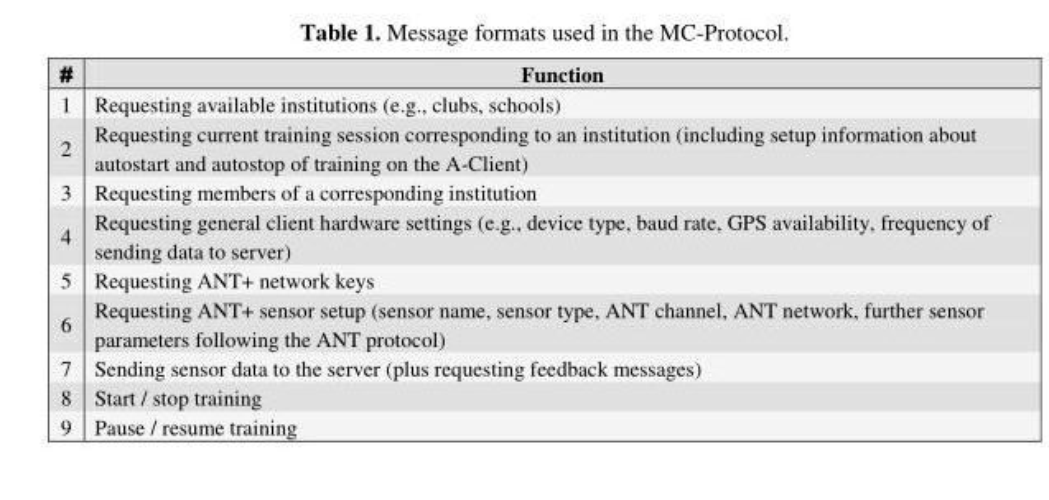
<table><thead><tr><td>#</td><td>Function</td></tr></thead><tbody><tr><td>1</td><td>Requesting available institutions (e.g., clubs, schools)</td></tr><tr><td>2</td><td>Requesting current training session corresponding to an institution (including setup information about autostart and autostop of training on the A-Client)</td></tr><tr><td>3</td><td>Requesting members of a corresponding institution</td></tr><tr><td>4</td><td>Requesting general client hardware settings (e.g., device type, baud rate, GPS availability, frequency of sending data to server)</td></tr><tr><td>5</td><td>Requesting ANT+ network keys</td></tr><tr><td>6</td><td>Requesting ANT+ sensor setup (sensor name, sensor type, ANT channel, ANT network, further sensor parameters following the ANT protocol)</td></tr><tr><td>7</td><td>Sending sensor data to the server (plus requesting feedback messages)</td></tr><tr><td>8</td><td>Start / stop training</td></tr><tr><td>9</td><td>Pause / resume training</td></tr></tbody></table>